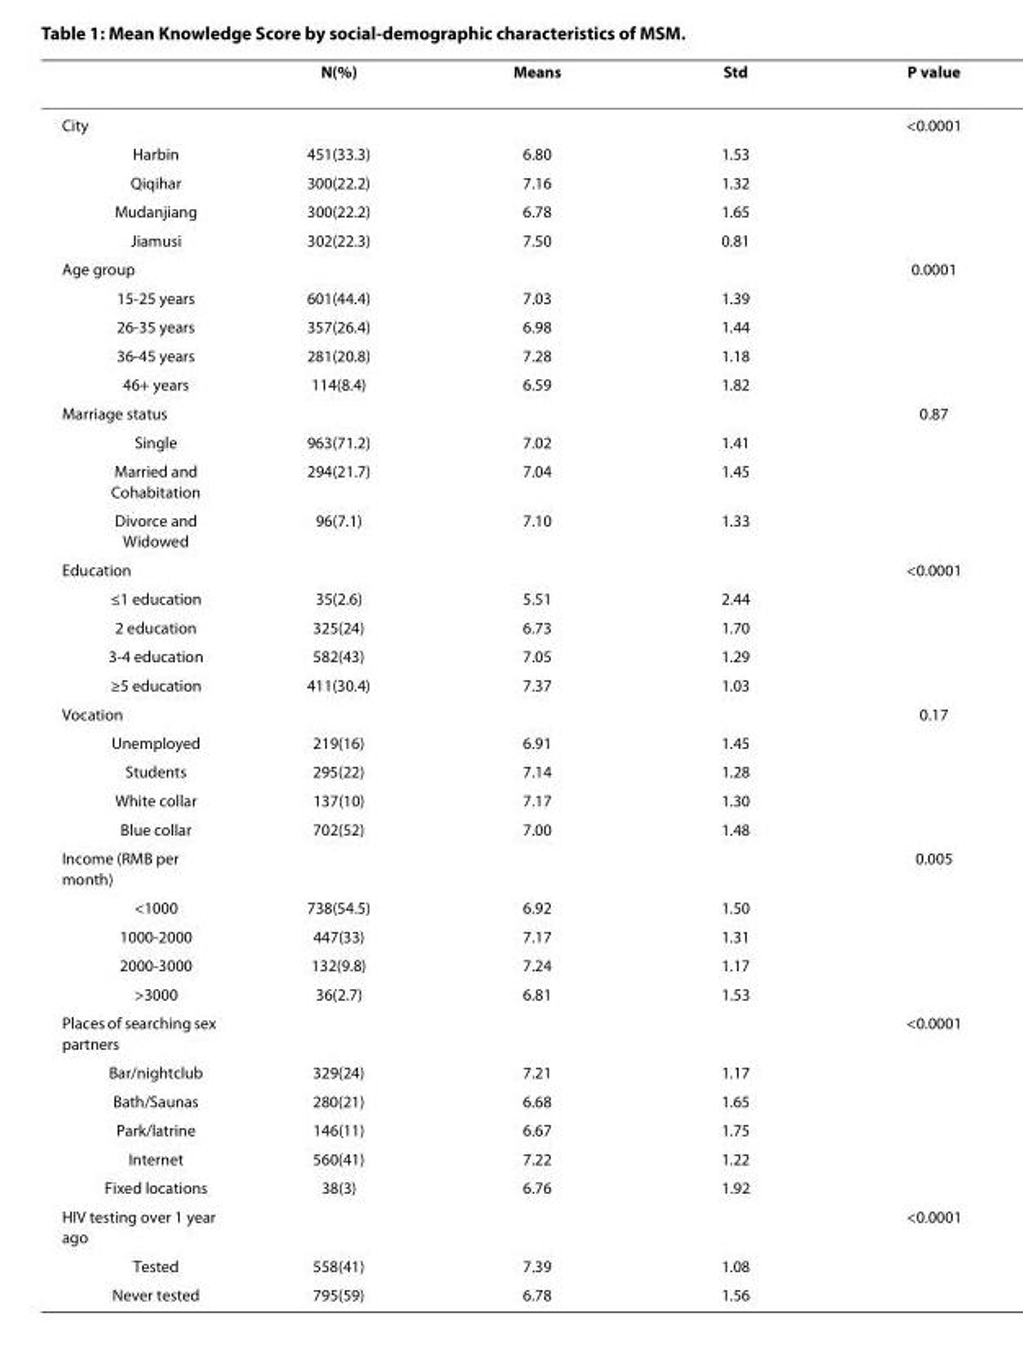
<table><thead><tr><td></td><td>N(%)</td><td>Means</td><td>Std</td><td>P value</td></tr></thead><tbody><tr><td>City</td><td></td><td></td><td></td><td>&lt;0.0001</td></tr><tr><td>Harbin</td><td>451(33.3)</td><td>6.80</td><td>1.53</td><td></td></tr><tr><td>Qiqihar</td><td>300(22.2)</td><td>7.16</td><td>1.32</td><td></td></tr><tr><td>Mudanjiang</td><td>300(22.2)</td><td>6.78</td><td>1.65</td><td></td></tr><tr><td>Jiamusi</td><td>302(22.3)</td><td>7.50</td><td>0.81</td><td></td></tr><tr><td>Age group</td><td></td><td></td><td></td><td>0.0001</td></tr><tr><td>15-25 years</td><td>601(44.4)</td><td>7.03</td><td>1.39</td><td></td></tr><tr><td>26-35 years</td><td>357(26.4)</td><td>6.98</td><td>1.44</td><td></td></tr><tr><td>36-45 years</td><td>281(20.8)</td><td>7.28</td><td>1.18</td><td></td></tr><tr><td>46+ years</td><td>114(8.4)</td><td>6.59</td><td>1.82</td><td></td></tr><tr><td>Marriage status</td><td></td><td></td><td></td><td>0.87</td></tr><tr><td>Single</td><td>963(71.2)</td><td>7.02</td><td>1.41</td><td></td></tr><tr><td>Married and Cohabitation</td><td>294(21.7)</td><td>7.04</td><td>1.45</td><td></td></tr><tr><td>Divorce and Widowed</td><td>96(7.1)</td><td>7.10</td><td>1.33</td><td></td></tr><tr><td>Education</td><td></td><td></td><td></td><td>&lt;0.0001</td></tr><tr><td>≤1 education</td><td>35(2.6)</td><td>5.51</td><td>2.44</td><td></td></tr><tr><td>2 education</td><td>325(24)</td><td>6.73</td><td>1.70</td><td></td></tr><tr><td>3-4 education</td><td>582(43)</td><td>7.05</td><td>1.29</td><td></td></tr><tr><td>≥5 education</td><td>411(30.4)</td><td>7.37</td><td>1.03</td><td></td></tr><tr><td>Vocation</td><td></td><td></td><td></td><td>0.17</td></tr><tr><td>Unemployed</td><td>219(16)</td><td>6.91</td><td>1.45</td><td></td></tr><tr><td>Students</td><td>295(22)</td><td>7.14</td><td>1.28</td><td></td></tr><tr><td>White collar</td><td>137(10)</td><td>7.17</td><td>1.30</td><td></td></tr><tr><td>Blue collar</td><td>702(52)</td><td>7.00</td><td>1.48</td><td></td></tr><tr><td>Income (RMB per month)</td><td></td><td></td><td></td><td>0.005</td></tr><tr><td>&lt;1000</td><td>738(54.5)</td><td>6.92</td><td>1.50</td><td></td></tr><tr><td>1000-2000</td><td>447(33)</td><td>7.17</td><td>1.31</td><td></td></tr><tr><td>2000-3000</td><td>132(9.8)</td><td>7.24</td><td>1.17</td><td></td></tr><tr><td>&gt;3000</td><td>36(2.7)</td><td>6.81</td><td>1.53</td><td></td></tr><tr><td>Places of searching sex partners</td><td></td><td></td><td></td><td>&lt;0.0001</td></tr><tr><td>Bar/nightclub</td><td>329(24)</td><td>7.21</td><td>1.17</td><td></td></tr><tr><td>Bath/Saunas</td><td>280(21)</td><td>6.68</td><td>1.65</td><td></td></tr><tr><td>Park/latrine</td><td>146(11)</td><td>6.67</td><td>1.75</td><td></td></tr><tr><td>Internet</td><td>560(41)</td><td>7.22</td><td>1.22</td><td></td></tr><tr><td>Fixed locations</td><td>38(3)</td><td>6.76</td><td>1.92</td><td></td></tr><tr><td>HIV testing over 1 year ago</td><td></td><td></td><td></td><td>&lt;0.0001</td></tr><tr><td>Tested</td><td>558(41)</td><td>7.39</td><td>1.08</td><td></td></tr><tr><td>Never tested</td><td>795(59)</td><td>6.78</td><td>1.56</td><td></td></tr></tbody></table>